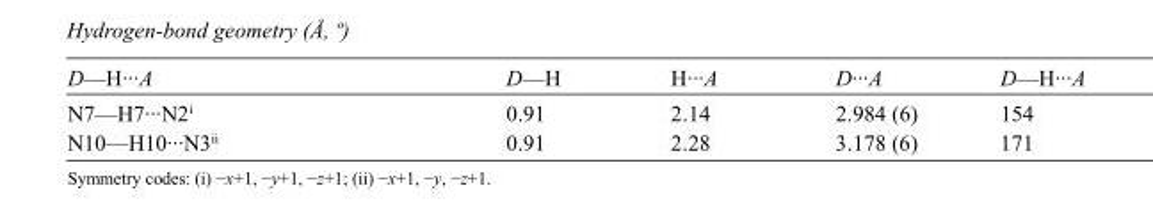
<table><tbody><tr><td>D—H···A</td><td>D—H</td><td>H···A</td><td>D···A</td><td>D—H···A</td></tr><tr><td>N7—H7···N2<sup>i</sup></td><td>0.91</td><td>2.14</td><td>2.984 (6)</td><td>154</td></tr><tr><td>N10—H10···N3<sup>ii</sup></td><td>0.91</td><td>2.28</td><td>3.178 (6)</td><td>171</td></tr></tbody></table>